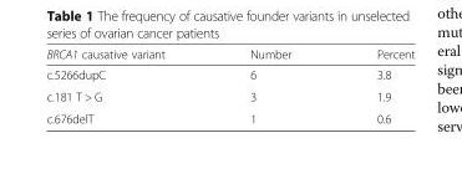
<table><thead><tr><td>BRCA1 causative variant</td><td>Number</td><td>Percent</td></tr></thead><tbody><tr><td>c.5266dupC</td><td>6</td><td>3.8</td></tr><tr><td>c.181 T &gt; G</td><td>3</td><td>1.9</td></tr><tr><td>c.676delT</td><td>1</td><td>0.6</td></tr></tbody></table>